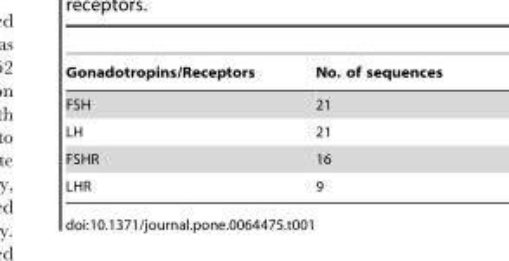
<table><thead><tr><td>Gonadotropins/Receptors</td><td>No. of sequences</td></tr></thead><tbody><tr><td>FSH</td><td>21</td></tr><tr><td>LH</td><td>21</td></tr><tr><td>FSHR</td><td>16</td></tr><tr><td>LHR</td><td>9</td></tr></tbody></table>